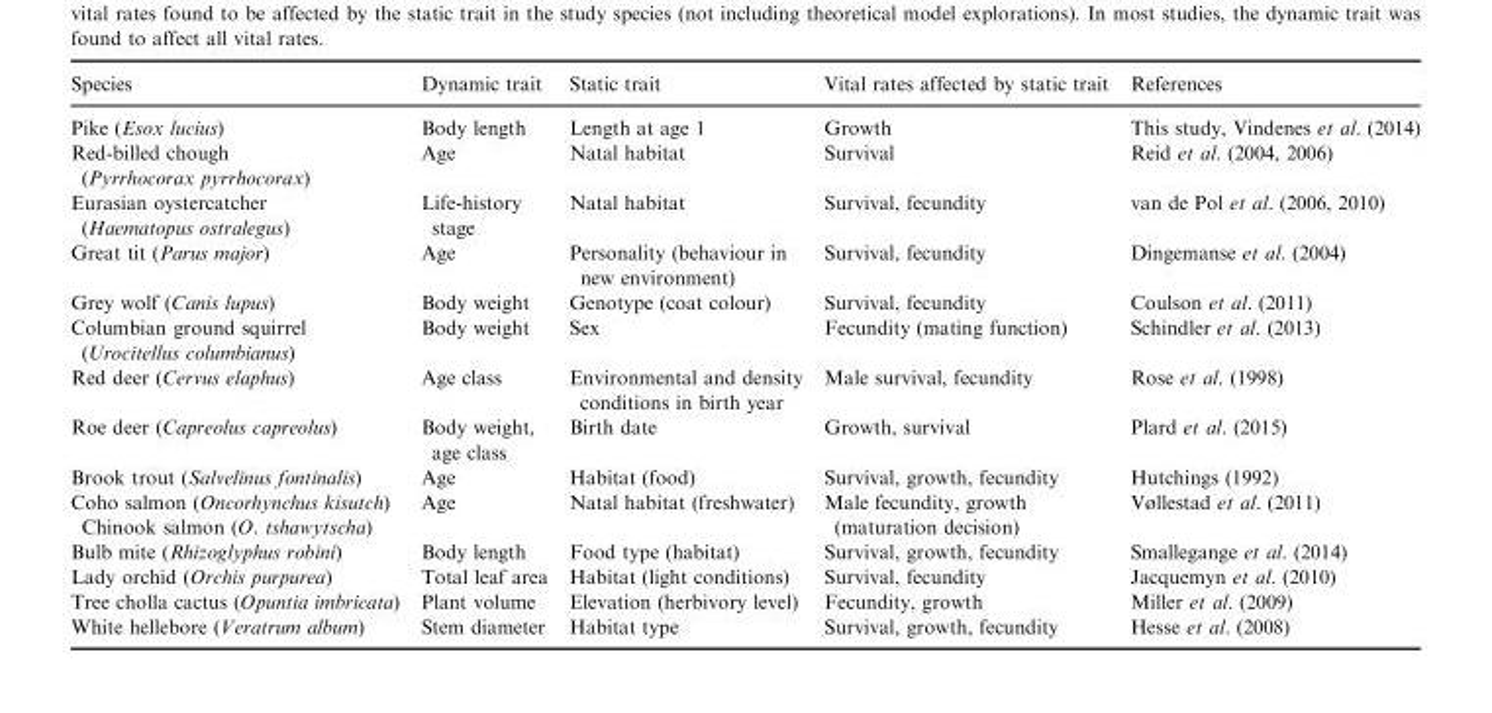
<table><thead><tr><td>Species</td><td>Dynamic trait</td><td>Static trait</td><td>Vital rates affected by static trait</td><td>References</td></tr></thead><tbody><tr><td>Pike (Esox lucius)</td><td>Body length</td><td>Length at age 1</td><td>Growth</td><td>This study, Vindenes et al. (2014)</td></tr><tr><td>Red-billed chough (Pyrrhocorax pyrrhocorax)</td><td>Age</td><td>Natal habitat</td><td>Survival</td><td>Reid et al. (2004, 2006)</td></tr><tr><td>Eurasian oystercatcher (Haematopus ostralegus)</td><td>Life-history stage</td><td>Natal habitat</td><td>Survival, fecundity</td><td>van de Pol et al. (2006, 2010)</td></tr><tr><td>Great tit (Parus major)</td><td>Age</td><td>Personality (behaviour in new environment)</td><td>Survival, fecundity</td><td>Dingemanse et al. (2004)</td></tr><tr><td>Grey wolf (Canis lupus)</td><td>Body weight</td><td>Genotype (coat colour)</td><td>Survival, fecundity</td><td>Coulson et al. (2011)</td></tr><tr><td>Columbian ground squirrel (Urocitellus columbianus)</td><td>Body weight</td><td>Sex</td><td>Fecundity (mating function)</td><td>Schindler et al. (2013)</td></tr><tr><td>Red deer (Cervus elaphus)</td><td>Age class</td><td>Environmental and density conditions in birth year</td><td>Male survival, fecundity</td><td>Rose et al. (1998)</td></tr><tr><td>Roe deer (Capreolus capreolus)</td><td>Body weight, age class</td><td>Birth date</td><td>Growth, survival</td><td>Plard et al. (2015)</td></tr><tr><td>Brook trout (Salvelinus fontinalis)</td><td>Age</td><td>Habitat (food)</td><td>Survival, growth, fecundity</td><td>Hutchings (1992)</td></tr><tr><td>Coho salmon (Oncorhynchus kisutch) Chinook salmon (O. tshawytscha)</td><td>Age</td><td>Natal habitat (freshwater)</td><td>Male fecundity, growth (maturation decision)</td><td>Vøllestad et al. (2011)</td></tr><tr><td>Bulb mite (Rhizoglyphus robini)</td><td>Body length</td><td>Food type (habitat)</td><td>Survival, growth, fecundity</td><td>Smallegange et al. (2014)</td></tr><tr><td>Lady orchid (Orchis purpurea)</td><td>Total leaf area</td><td>Habitat (light conditions)</td><td>Survival, fecundity</td><td>Jacquemyn et al. (2010)</td></tr><tr><td>Tree cholla cactus (Opuntia imbricata)</td><td>Plant volume</td><td>Elevation (herbivory level)</td><td>Fecundity, growth</td><td>Miller et al. (2009)</td></tr><tr><td>White hellebore (Veratrum album)</td><td>Stem diameter</td><td>Habitat type</td><td>Survival, growth, fecundity</td><td>Hesse et al. (2008)</td></tr></tbody></table>